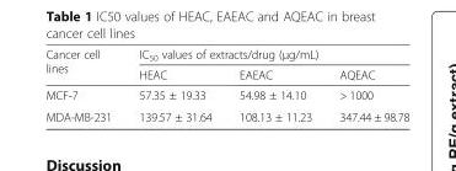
<table><thead><tr><td rowspan="2">Cancer cell lines</td><td colspan="3">IC<sub>50</sub> values of extracts/drug (μg/mL)</td></tr><tr><td>HEAC</td><td>EAEAC</td><td>AQEAC</td></tr></thead><tbody><tr><td>MCF-7</td><td>57.35 ± 19.33</td><td>54.98 ± 14.10</td><td>&gt; 1000</td></tr><tr><td>MDA-MB-231</td><td>139.57 ± 31.64</td><td>108.13 ± 11.23</td><td>347.44 ± 98.78</td></tr></tbody></table>